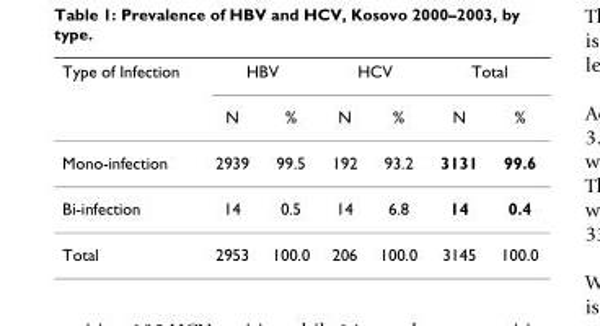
<table><thead><tr><td rowspan="2">Type of Infection</td><td colspan="2">HBV</td><td colspan="2">HCV</td><td colspan="2">Total</td></tr><tr><td>N</td><td>%</td><td>N</td><td>%</td><td>N</td><td>%</td></tr></thead><tbody><tr><td>Mono-infection</td><td>2939</td><td>99.5</td><td>192</td><td>93.2</td><td>3131</td><td>99.6</td></tr><tr><td>Bi-infection</td><td>14</td><td>0.5</td><td>14</td><td>6.8</td><td>14</td><td>0.4</td></tr><tr><td>Total</td><td>2953</td><td>100.0</td><td>206</td><td>100.0</td><td>3145</td><td>100.0</td></tr></tbody></table>